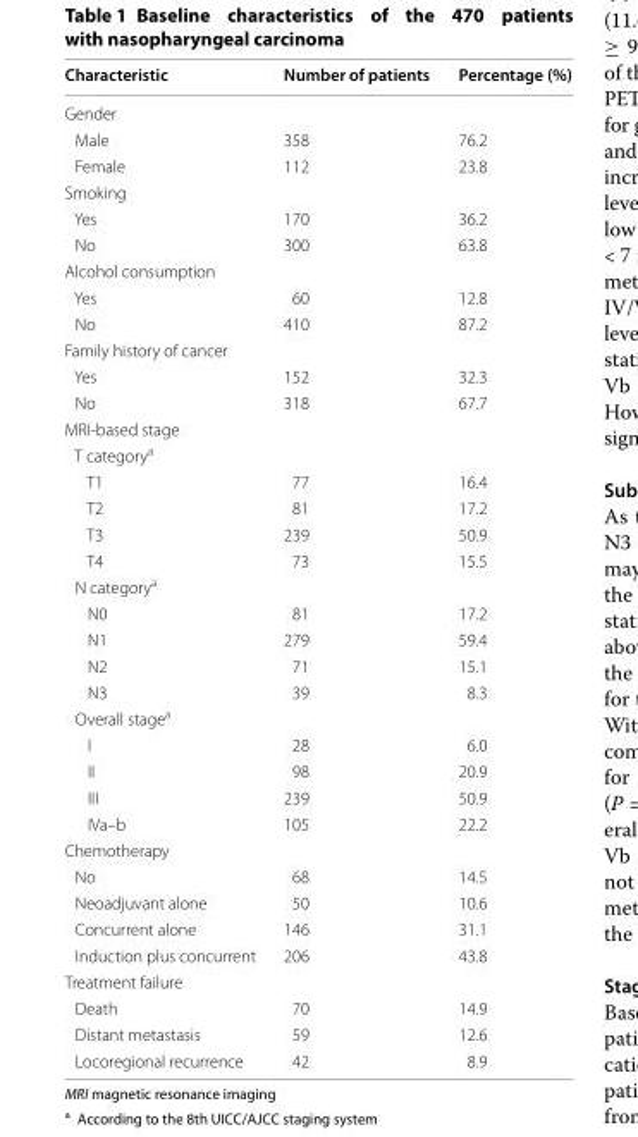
<table><thead><tr><td>Characteristic</td><td>Number of patients</td><td>Percentage (%)</td></tr></thead><tbody><tr><td colspan="3">Gender</td></tr><tr><td>Male</td><td>358</td><td>76.2</td></tr><tr><td>Female</td><td>112</td><td>23.8</td></tr><tr><td colspan="3">Smoking</td></tr><tr><td>Yes</td><td>170</td><td>36.2</td></tr><tr><td>No</td><td>300</td><td>63.8</td></tr><tr><td colspan="3">Alcohol consumption</td></tr><tr><td>Yes</td><td>60</td><td>12.8</td></tr><tr><td>No</td><td>410</td><td>87.2</td></tr><tr><td colspan="3">Family history of cancer</td></tr><tr><td>Yes</td><td>152</td><td>32.3</td></tr><tr><td>No</td><td>318</td><td>67.7</td></tr><tr><td colspan="3">MRI‑based stage</td></tr><tr><td colspan="3">T category<sup>a</sup></td></tr><tr><td>T1</td><td>77</td><td>16.4</td></tr><tr><td>T2</td><td>81</td><td>17.2</td></tr><tr><td>T3</td><td>239</td><td>50.9</td></tr><tr><td>T4</td><td>73</td><td>15.5</td></tr><tr><td colspan="3">N category<sup>a</sup></td></tr><tr><td>N0</td><td>81</td><td>17.2</td></tr><tr><td>N1</td><td>279</td><td>59.4</td></tr><tr><td>N2</td><td>71</td><td>15.1</td></tr><tr><td>N3</td><td>39</td><td>8.3</td></tr><tr><td colspan="3">Overall stage<sup>a</sup></td></tr><tr><td>I</td><td>28</td><td>6.0</td></tr><tr><td>II</td><td>98</td><td>20.9</td></tr><tr><td>III</td><td>239</td><td>50.9</td></tr><tr><td>IVa–b</td><td>105</td><td>22.2</td></tr><tr><td colspan="3">Chemotherapy</td></tr><tr><td>No</td><td>68</td><td>14.5</td></tr><tr><td>Neoadjuvant alone</td><td>50</td><td>10.6</td></tr><tr><td>Concurrent alone</td><td>146</td><td>31.1</td></tr><tr><td>Induction plus concurrent</td><td>206</td><td>43.8</td></tr><tr><td colspan="3">Treatment failure</td></tr><tr><td>Death</td><td>70</td><td>14.9</td></tr><tr><td>Distant metastasis</td><td>59</td><td>12.6</td></tr><tr><td>Locoregional recurrence</td><td>42</td><td>8.9</td></tr></tbody></table>